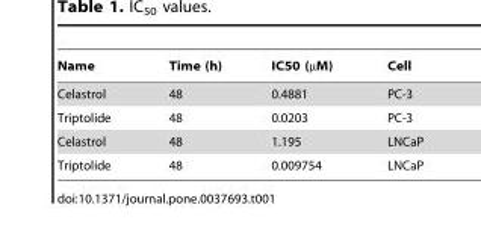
<table><thead><tr><td>Name</td><td>Time (h)</td><td>IC50 (µM)</td><td>Cell</td></tr></thead><tbody><tr><td>Celastrol</td><td>48</td><td>0.4881</td><td>PC-3</td></tr><tr><td>Triptolide</td><td>48</td><td>0.0203</td><td>PC-3</td></tr><tr><td>Celastrol</td><td>48</td><td>1.195</td><td>LNCaP</td></tr><tr><td>Triptolide</td><td>48</td><td>0.009754</td><td>LNCaP</td></tr></tbody></table>